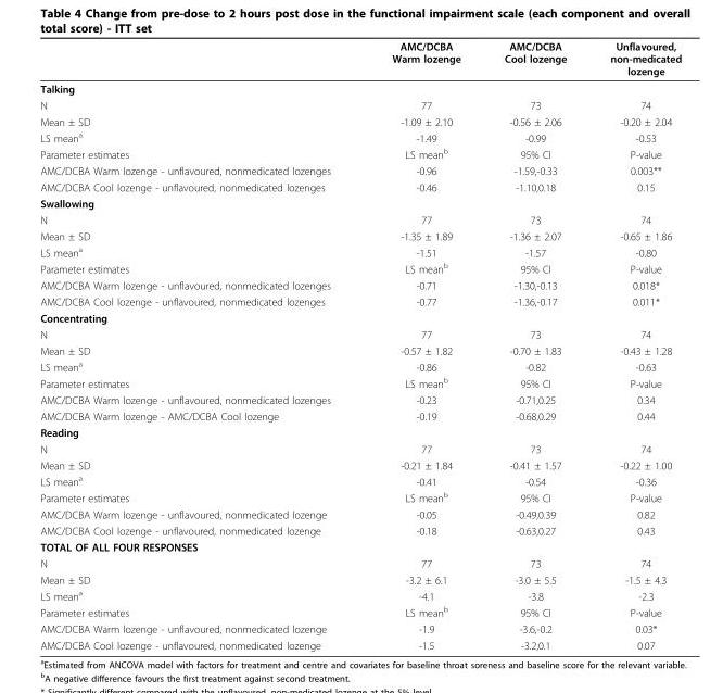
<table><thead><tr><td></td><td>AMC/DCBA Warm lozenge</td><td>AMC/DCBA Cool lozenge</td><td>Unflavoured, non-medicated lozenge</td></tr></thead><tbody><tr><td colspan="4">Talking</td></tr><tr><td>N</td><td>77</td><td>73</td><td>74</td></tr><tr><td>Mean ± SD</td><td>-1.09 ± 2.10</td><td>-0.56 ± 2.06</td><td>-0.20 ± 2.04</td></tr><tr><td>LS mean<sup>a</sup></td><td>-1.49</td><td>-0.99</td><td>-0.53</td></tr><tr><td>Parameter estimates</td><td>LS mean<sup>b</sup></td><td>95% CI</td><td>P-value</td></tr><tr><td>AMC/DCBA Warm lozenge - unflavoured, nonmedicated lozenges</td><td>-0.96</td><td>-1.59,-0.33</td><td>0.003**</td></tr><tr><td>AMC/DCBA Cool lozenge - unflavoured, nonmedicated lozenges</td><td>-0.46</td><td>-1.10,0.18</td><td>0.15</td></tr><tr><td colspan="4">Swallowing</td></tr><tr><td>N</td><td>77</td><td>73</td><td>74</td></tr><tr><td>Mean ± SD</td><td>-1.35 ± 1.89</td><td>-1.36 ± 2.07</td><td>-0.65 ± 1.86</td></tr><tr><td>LS mean<sup>a</sup></td><td>-1.51</td><td>-1.57</td><td>-0.80</td></tr><tr><td>Parameter estimates</td><td>LS mean<sup>b</sup></td><td>95% CI</td><td>P-value</td></tr><tr><td>AMC/DCBA Warm lozenge - unflavoured, nonmedicated lozenges</td><td>-0.71</td><td>-1.30,-0.13</td><td>0.018*</td></tr><tr><td>AMC/DCBA Cool lozenge - unflavoured, nonmedicated lozenges</td><td>-0.77</td><td>-1.36,-0.17</td><td>0.011*</td></tr><tr><td colspan="4">Concentrating</td></tr><tr><td>N</td><td>77</td><td>73</td><td>74</td></tr><tr><td>Mean ± SD</td><td>-0.57 ± 1.82</td><td>-0.70 ± 1.83</td><td>-0.43 ± 1.28</td></tr><tr><td>LS mean<sup>a</sup></td><td>-0.86</td><td>-0.82</td><td>-0.63</td></tr><tr><td>Parameter estimates</td><td>LS mean<sup>b</sup></td><td>95% CI</td><td>P-value</td></tr><tr><td>AMC/DCBA Warm lozenge - unflavoured, nonmedicated lozenges</td><td>-0.23</td><td>-0.71,0.25</td><td>0.34</td></tr><tr><td>AMC/DCBA Warm lozenge - AMC/DCBA Cool lozenge</td><td>-0.19</td><td>-0.68,0.29</td><td>0.44</td></tr><tr><td colspan="4">Reading</td></tr><tr><td>N</td><td>77</td><td>73</td><td>74</td></tr><tr><td>Mean ± SD</td><td>-0.21 ± 1.84</td><td>-0.41 ± 1.57</td><td>-0.22 ± 1.00</td></tr><tr><td>LS mean<sup>a</sup></td><td>-0.41</td><td>-0.54</td><td>-0.36</td></tr><tr><td>Parameter estimates</td><td>LS mean<sup>b</sup></td><td>95% CI</td><td>P-value</td></tr><tr><td>AMC/DCBA Warm lozenge - unflavoured, nonmedicated lozenge</td><td>-0.05</td><td>-0.49,0.39</td><td>0.82</td></tr><tr><td>AMC/DCBA Cool lozenge - unflavoured, nonmedicated lozenge</td><td>-0.18</td><td>-0.63,0.27</td><td>0.43</td></tr><tr><td colspan="4">TOTAL OF ALL FOUR RESPONSES</td></tr><tr><td>N</td><td>77</td><td>73</td><td>74</td></tr><tr><td>Mean ± SD</td><td>-3.2 ± 6.1</td><td>-3.0 ± 5.5</td><td>-1.5 ± 4.3</td></tr><tr><td>LS mean<sup>a</sup></td><td>-4.1</td><td>-3.8</td><td>-2.3</td></tr><tr><td>Parameter estimates</td><td>LS mean<sup>b</sup></td><td>95% CI</td><td>P-value</td></tr><tr><td>AMC/DCBA Warm lozenge - unflavoured, nonmedicated lozenge</td><td>-1.9</td><td>-3.6,-0.2</td><td>0.03*</td></tr><tr><td>AMC/DCBA Cool lozenge - unflavoured, nonmedicated lozenge</td><td>-1.5</td><td>-3.2,0.1</td><td>0.07</td></tr></tbody></table>